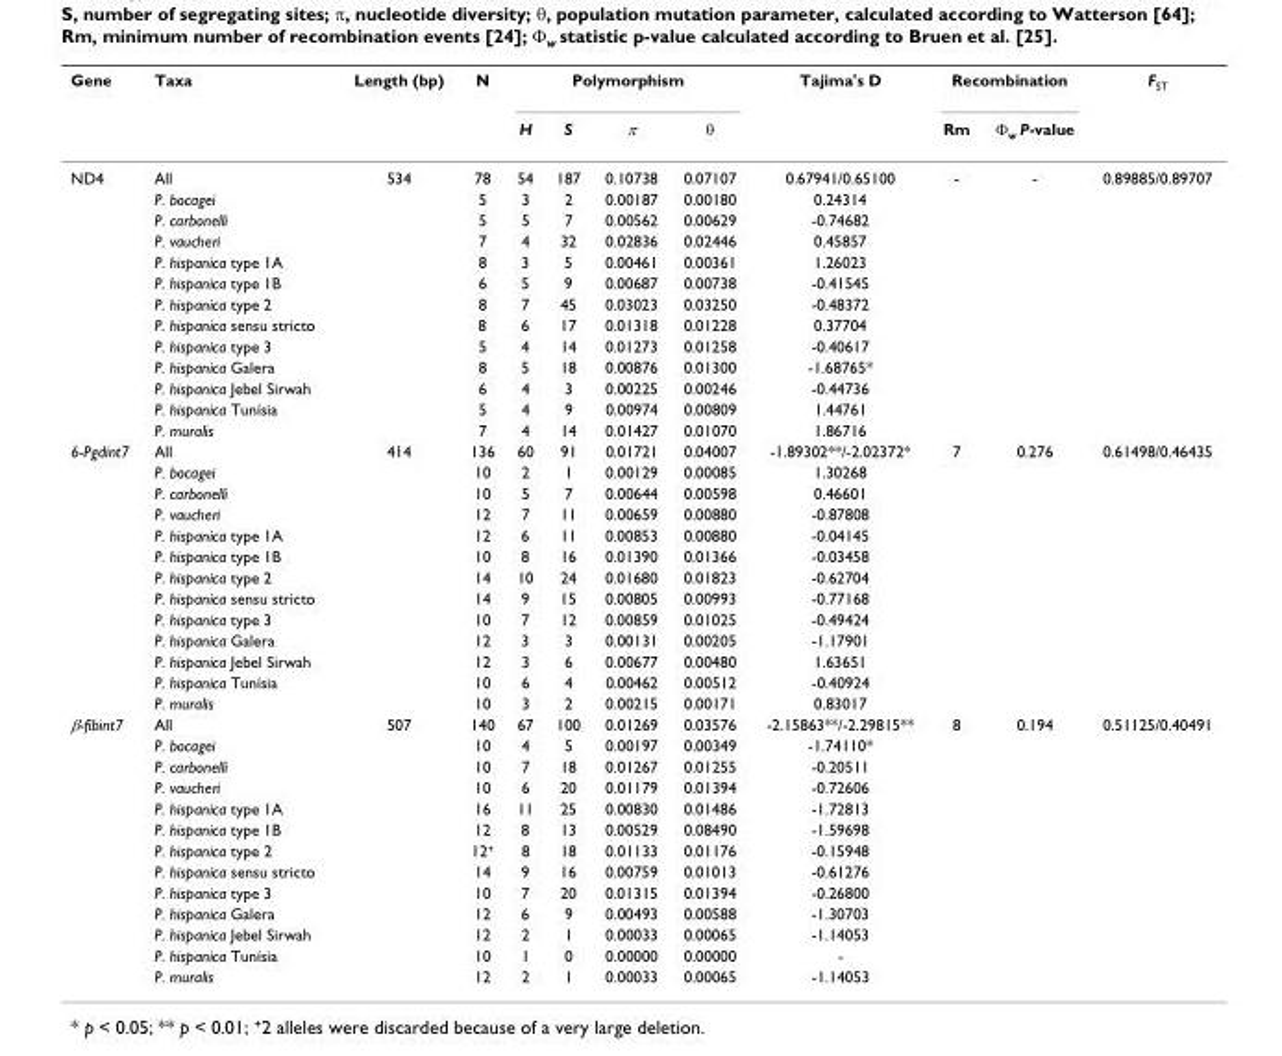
<table><thead><tr><td rowspan="2">Gene</td><td rowspan="2">Taxa</td><td rowspan="2">Length (bp)</td><td rowspan="2">N</td><td colspan="4">Polymorphism</td><td rowspan="2">Tajima&#x27;s D</td><td colspan="2">Recombination</td><td rowspan="2">F<sub>ST</sub></td></tr><tr><td>H</td><td>S</td><td>π</td><td>θ</td><td>Rm</td><td>Φ<sub>w</sub> P-value</td></tr></thead><tbody><tr><td rowspan="13">ND4</td><td>All</td><td>534</td><td>78</td><td>54</td><td>187</td><td>0.10738</td><td>0.07107</td><td>0.67941/0.65100</td><td>-</td><td>-</td><td>0.89885/0.89707</td></tr><tr><td>P. bocagei</td><td></td><td>5</td><td>3</td><td>2</td><td>0.00187</td><td>0.00180</td><td>0.24314</td><td></td><td></td><td></td></tr><tr><td>P. carbonelli</td><td></td><td>5</td><td>5</td><td>7</td><td>0.00562</td><td>0.00629</td><td>-0.74682</td><td></td><td></td><td></td></tr><tr><td>P. vaucheri</td><td></td><td>7</td><td>4</td><td>32</td><td>0.02836</td><td>0.02446</td><td>0.45857</td><td></td><td></td><td></td></tr><tr><td>P. hispanica type 1A</td><td></td><td>8</td><td>3</td><td>5</td><td>0.00461</td><td>0.00361</td><td>1.26023</td><td></td><td></td><td></td></tr><tr><td>P. hispanica type 1B</td><td></td><td>6</td><td>5</td><td>9</td><td>0.00687</td><td>0.00738</td><td>-0.41545</td><td></td><td></td><td></td></tr><tr><td>P. hispanica type 2</td><td></td><td>8</td><td>7</td><td>45</td><td>0.03023</td><td>0.03250</td><td>-0.48372</td><td></td><td></td><td></td></tr><tr><td>P. hispanica sensu stricto</td><td></td><td>8</td><td>6</td><td>17</td><td>0.01318</td><td>0.01228</td><td>0.37704</td><td></td><td></td><td></td></tr><tr><td>P. hispanica type 3</td><td></td><td>5</td><td>4</td><td>14</td><td>0.01273</td><td>0.01258</td><td>-0.40617</td><td></td><td></td><td></td></tr><tr><td>P. hispanica Galera</td><td></td><td>8</td><td>5</td><td>18</td><td>0.00876</td><td>0.01300</td><td>-1.68765*</td><td></td><td></td><td></td></tr><tr><td>P. hispanica Jebel Sirwah</td><td></td><td>6</td><td>4</td><td>3</td><td>0.00225</td><td>0.00246</td><td>-0.44736</td><td></td><td></td><td></td></tr><tr><td>P. hispanica Tunísia</td><td></td><td>5</td><td>4</td><td>9</td><td>0.00974</td><td>0.00809</td><td>1.44761</td><td></td><td></td><td></td></tr><tr><td>P. muralis</td><td></td><td>7</td><td>4</td><td>14</td><td>0.01427</td><td>0.01070</td><td>1.86716</td><td></td><td></td><td></td></tr><tr><td rowspan="13">6-Pgdint7</td><td>All</td><td>414</td><td>136</td><td>60</td><td>91</td><td>0.01721</td><td>0.04007</td><td>-1.89302**/-2.02372*</td><td>7</td><td>0.276</td><td>0.61498/0.46435</td></tr><tr><td>P. bocagei</td><td></td><td>10</td><td>2</td><td>1</td><td>0.00129</td><td>0.00085</td><td>1.30268</td><td></td><td></td><td></td></tr><tr><td>P. carbonelli</td><td></td><td>10</td><td>5</td><td>7</td><td>0.00644</td><td>0.00598</td><td>0.46601</td><td></td><td></td><td></td></tr><tr><td>P. vaucheri</td><td></td><td>12</td><td>7</td><td>11</td><td>0.00659</td><td>0.00880</td><td>-0.87808</td><td></td><td></td><td></td></tr><tr><td>P. hispanica type 1A</td><td></td><td>12</td><td>6</td><td>11</td><td>0.00853</td><td>0.00880</td><td>-0.04145</td><td></td><td></td><td></td></tr><tr><td>P. hispanica type 1B</td><td></td><td>10</td><td>8</td><td>16</td><td>0.01390</td><td>0.01366</td><td>-0.03458</td><td></td><td></td><td></td></tr><tr><td>P. hispanica type 2</td><td></td><td>14</td><td>10</td><td>24</td><td>0.01680</td><td>0.01823</td><td>-0.62704</td><td></td><td></td><td></td></tr><tr><td>P. hispanica sensu stricto</td><td></td><td>14</td><td>9</td><td>15</td><td>0.00805</td><td>0.00993</td><td>-0.77168</td><td></td><td></td><td></td></tr><tr><td>P. hispanica type 3</td><td></td><td>10</td><td>7</td><td>12</td><td>0.00859</td><td>0.01025</td><td>-0.49424</td><td></td><td></td><td></td></tr><tr><td>P. hispanica Galera</td><td></td><td>12</td><td>3</td><td>3</td><td>0.00131</td><td>0.00205</td><td>-1.17901</td><td></td><td></td><td></td></tr><tr><td>P. hispanica Jebel Sirwah</td><td></td><td>12</td><td>3</td><td>6</td><td>0.00677</td><td>0.00480</td><td>1.63651</td><td></td><td></td><td></td></tr><tr><td>P. hispanica Tunísia</td><td></td><td>10</td><td>6</td><td>4</td><td>0.00462</td><td>0.00512</td><td>-0.40924</td><td></td><td></td><td></td></tr><tr><td>P. muralis</td><td></td><td>10</td><td>3</td><td>2</td><td>0.00215</td><td>0.00171</td><td>0.83017</td><td></td><td></td><td></td></tr><tr><td rowspan="13">β-fibint7</td><td>All</td><td>507</td><td>140</td><td>67</td><td>100</td><td>0.01269</td><td>0.03576</td><td>-2.15863**/-2.29815**</td><td>8</td><td>0.194</td><td>0.51125/0.40491</td></tr><tr><td>P. bocagei</td><td></td><td>10</td><td>4</td><td>5</td><td>0.00197</td><td>0.00349</td><td>-1.74110*</td><td></td><td></td><td></td></tr><tr><td>P. carbonelli</td><td></td><td>10</td><td>7</td><td>18</td><td>0.01267</td><td>0.01255</td><td>-0.20511</td><td></td><td></td><td></td></tr><tr><td>P. vaucheri</td><td></td><td>10</td><td>6</td><td>20</td><td>0.01179</td><td>0.01394</td><td>-0.72606</td><td></td><td></td><td></td></tr><tr><td>P. hispanica type 1A</td><td></td><td>16</td><td>11</td><td>25</td><td>0.00830</td><td>0.01486</td><td>-1.72813</td><td></td><td></td><td></td></tr><tr><td>P. hispanica type 1B</td><td></td><td>12</td><td>8</td><td>13</td><td>0.00529</td><td>0.08490</td><td>-1.59698</td><td></td><td></td><td></td></tr><tr><td>P. hispanica type 2</td><td></td><td>12<sup>+</sup></td><td>8</td><td>18</td><td>0.01133</td><td>0.01176</td><td>-0.15948</td><td></td><td></td><td></td></tr><tr><td>P. hispanica sensu stricto</td><td></td><td>14</td><td>9</td><td>16</td><td>0.00759</td><td>0.01013</td><td>-0.61276</td><td></td><td></td><td></td></tr><tr><td>P. hispanica type 3</td><td></td><td>10</td><td>7</td><td>20</td><td>0.01315</td><td>0.01394</td><td>-0.26800</td><td></td><td></td><td></td></tr><tr><td>P. hispanica Galera</td><td></td><td>12</td><td>6</td><td>9</td><td>0.00493</td><td>0.00588</td><td>-1.30703</td><td></td><td></td><td></td></tr><tr><td>P. hispanica Jebel Sirwah</td><td></td><td>12</td><td>2</td><td>1</td><td>0.00033</td><td>0.00065</td><td>-1.14053</td><td></td><td></td><td></td></tr><tr><td>P. hispanica Tunísia</td><td></td><td>10</td><td>1</td><td>0</td><td>0.00000</td><td>0.00000</td><td>-</td><td></td><td></td><td></td></tr><tr><td>P. muralis</td><td></td><td>12</td><td>2</td><td>1</td><td>0.00033</td><td>0.00065</td><td>-1.14053</td><td></td><td></td><td></td></tr></tbody></table>